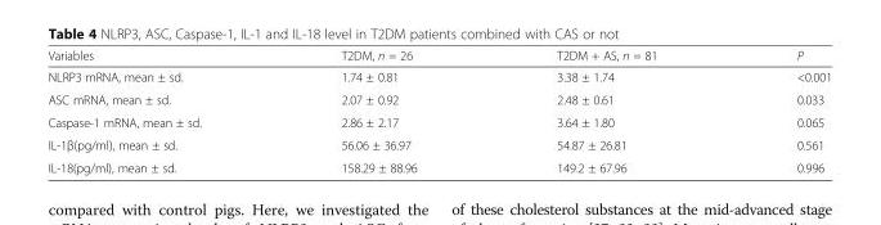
<table><thead><tr><td>Variables</td><td>T2DM, n = 26</td><td>T2DM + AS, n = 81</td><td>P</td></tr></thead><tbody><tr><td>NLRP3 mRNA, mean ± sd.</td><td>1.74 ± 0.81</td><td>3.38 ± 1.74</td><td>&lt;0.001</td></tr><tr><td>ASC mRNA, mean ± sd.</td><td>2.07 ± 0.92</td><td>2.48 ± 0.61</td><td>0.033</td></tr><tr><td>Caspase-1 mRNA, mean ± sd.</td><td>2.86 ± 2.17</td><td>3.64 ± 1.80</td><td>0.065</td></tr><tr><td>IL-1β(pg/ml), mean ± sd.</td><td>56.06 ± 36.97</td><td>54.87 ± 26.81</td><td>0.561</td></tr><tr><td>IL-18(pg/ml), mean ± sd.</td><td>158.29 ± 88.96</td><td>149.2 ± 67.96</td><td>0.996</td></tr></tbody></table>